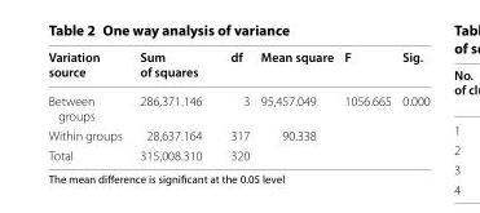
<table><thead><tr><td>Variation source</td><td>Sum of squares</td><td>df</td><td>Mean square</td><td>F</td><td>Sig.</td></tr></thead><tbody><tr><td>Between groups</td><td>286,371.146</td><td>3</td><td>95,457.049</td><td>1056.665</td><td>0.000</td></tr><tr><td>Within groups</td><td>28,637.164</td><td>317</td><td>90.338</td><td></td><td></td></tr><tr><td>Total</td><td>315,008.310</td><td>320</td><td></td><td></td><td></td></tr></tbody></table>